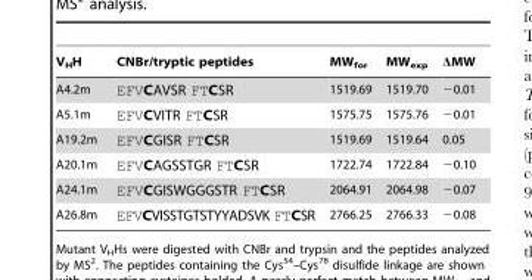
<table><thead><tr><td>V<sub>H</sub>H</td><td>CNBr/tryptic peptides</td><td>MW<sub>for</sub></td><td>MW<sub>exp</sub></td><td>ΔMW</td></tr></thead><tbody><tr><td>A4.2m</td><td>EFVCAVSR FTCSR</td><td>1519.69</td><td>1519.70</td><td>−0.01</td></tr><tr><td>A5.1m</td><td>EFVCVITR FTCSR</td><td>1575.75</td><td>1575.76</td><td>−0.01</td></tr><tr><td>A19.2m</td><td>EFVCGISR FTCSR</td><td>1519.69</td><td>1519.64</td><td>0.05</td></tr><tr><td>A20.1m</td><td>EFVCAGSSTGR FTCSR</td><td>1722.74</td><td>1722.84</td><td>−0.10</td></tr><tr><td>A24.1m</td><td>EFVCGISWGGGSTR FTCSR</td><td>2064.91</td><td>2064.98</td><td>−0.07</td></tr><tr><td>A26.8m</td><td>EFVCVISSTGTSTYYADSVK FTCSR</td><td>2766.25</td><td>2766.33</td><td>−0.08</td></tr></tbody></table>